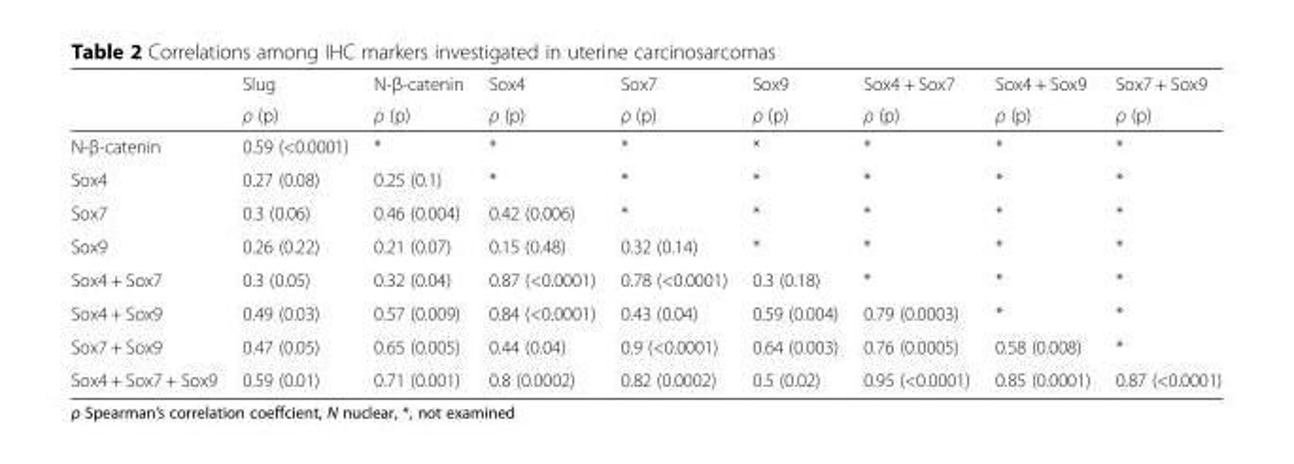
<table><thead><tr><td rowspan="2"></td><td rowspan="2">Slug ρ (p)</td><td rowspan="2">N-β-catenin ρ (p)</td><td rowspan="2">Sox4 ρ (p)</td><td rowspan="2">Sox7 ρ (p)</td><td rowspan="2">Sox9 ρ (p)</td><td rowspan="2">Sox4 + Sox7 ρ (p)</td><td rowspan="2">Sox4 + Sox9 ρ (p)</td><td rowspan="2">Sox7 + Sox9 ρ (p)</td></tr><tr></tr></thead><tbody><tr><td>N-β-catenin</td><td>0.59 (&lt;0.0001)</td><td>*</td><td>*</td><td>*</td><td>*</td><td>*</td><td>*</td><td>*</td></tr><tr><td>Sox4</td><td>0.27 (0.08)</td><td>0.25 (0.1)</td><td>*</td><td>*</td><td>*</td><td>*</td><td>*</td><td>*</td></tr><tr><td>Sox7</td><td>0.3 (0.06)</td><td>0.46 (0.004)</td><td>0.42 (0.006)</td><td>*</td><td>*</td><td>*</td><td>*</td><td>*</td></tr><tr><td>Sox9</td><td>0.26 (0.22)</td><td>0.21 (0.07)</td><td>0.15 (0.48)</td><td>0.32 (0.14)</td><td>*</td><td>*</td><td>*</td><td>*</td></tr><tr><td>Sox4 + Sox7</td><td>0.3 (0.05)</td><td>0.32 (0.04)</td><td>0.87 (&lt;0.0001)</td><td>0.78 (&lt;0.0001)</td><td>0.3 (0.18)</td><td>*</td><td>*</td><td>*</td></tr><tr><td>Sox4 + Sox9</td><td>0.49 (0.03)</td><td>0.57 (0.009)</td><td>0.84 (&lt;0.0001)</td><td>0.43 (0.04)</td><td>0.59 (0.004)</td><td>0.79 (0.0003)</td><td>*</td><td>*</td></tr><tr><td>Sox7 + Sox9</td><td>0.47 (0.05)</td><td>0.65 (0.005)</td><td>0.44 (0.04)</td><td>0.9 (&lt;0.0001)</td><td>0.64 (0.003)</td><td>0.76 (0.0005)</td><td>0.58 (0.008)</td><td>*</td></tr><tr><td>Sox4 + Sox7 + Sox9</td><td>0.59 (0.01)</td><td>0.71 (0.001)</td><td>0.8 (0.0002)</td><td>0.82 (0.0002)</td><td>0.5 (0.02)</td><td>0.95 (&lt;0.0001)</td><td>0.85 (0.0001)</td><td>0.87 (&lt;0.0001)</td></tr></tbody></table>